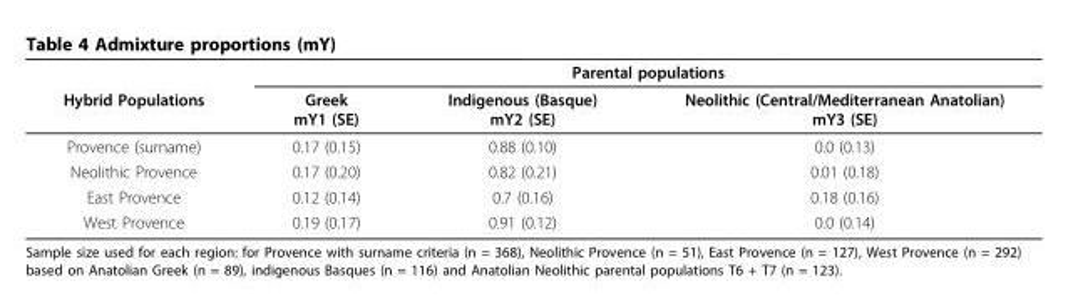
<table><thead><tr><td rowspan="2">Hybrid Populations</td><td colspan="3">Parental populations</td></tr><tr><td>Greek mY1 (SE)</td><td>Indigenous (Basque) mY2 (SE)</td><td>Neolithic (Central/Mediterranean Anatolian) mY3 (SE)</td></tr></thead><tbody><tr><td>Provence (surname)</td><td>0.17 (0.15)</td><td>0.88 (0.10)</td><td>0.0 (0.13)</td></tr><tr><td>Neolithic Provence</td><td>0.17 (0.20)</td><td>0.82 (0.21)</td><td>0.01 (0.18)</td></tr><tr><td>East Provence</td><td>0.12 (0.14)</td><td>0.7 (0.16)</td><td>0.18 (0.16)</td></tr><tr><td>West Provence</td><td>0.19 (0.17)</td><td>0.91 (0.12)</td><td>0.0 (0.14)</td></tr></tbody></table>